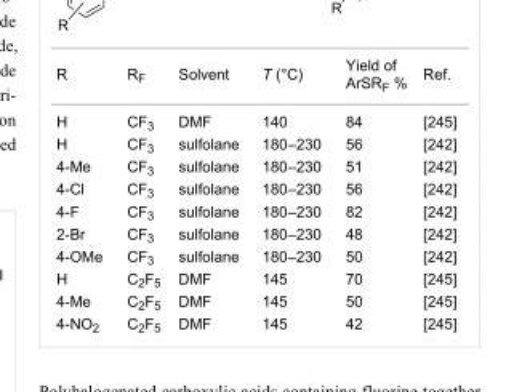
<table><tbody><tr><td>R</td><td>R<sub>F</sub></td><td>Solvent</td><td>T (°C)</td><td>Yield of ArSR<sub>F</sub> %</td><td>Ref.</td></tr><tr><td>H</td><td>CF<sub>3</sub></td><td>DMF</td><td>140</td><td>84</td><td>[245]</td></tr><tr><td>H</td><td>CF<sub>3</sub></td><td>sulfolane</td><td>180–230</td><td>56</td><td>[242]</td></tr><tr><td>4-Me</td><td>CF<sub>3</sub></td><td>sulfolane</td><td>180–230</td><td>51</td><td>[242]</td></tr><tr><td>4-Cl</td><td>CF<sub>3</sub></td><td>sulfolane</td><td>180–230</td><td>56</td><td>[242]</td></tr><tr><td>4-F</td><td>CF<sub>3</sub></td><td>sulfolane</td><td>180–230</td><td>82</td><td>[242]</td></tr><tr><td>2-Br</td><td>CF<sub>3</sub></td><td>sulfolane</td><td>180–230</td><td>48</td><td>[242]</td></tr><tr><td>4-OMe</td><td>CF<sub>3</sub></td><td>sulfolane</td><td>180–230</td><td>50</td><td>[242]</td></tr><tr><td>H</td><td>C<sub>2</sub>F<sub>5</sub></td><td>DMF</td><td>145</td><td>70</td><td>[245]</td></tr><tr><td>4-Me</td><td>C<sub>2</sub>F<sub>5</sub></td><td>DMF</td><td>145</td><td>50</td><td>[245]</td></tr><tr><td>4-NO<sub>2</sub></td><td>C<sub>2</sub>F<sub>5</sub></td><td>DMF</td><td>145</td><td>42</td><td>[245]</td></tr></tbody></table>